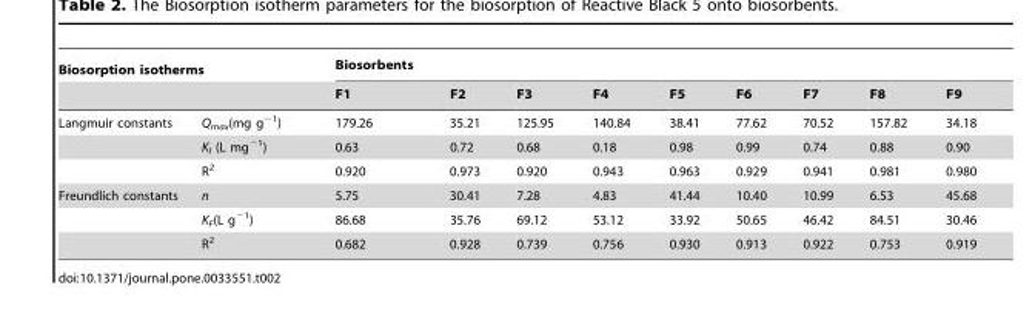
<table><thead><tr><td colspan="2">Biosorption isotherms</td><td colspan="9">Biosorbents</td></tr><tr><td></td><td></td><td>F1</td><td>F2</td><td>F3</td><td>F4</td><td>F5</td><td>F6</td><td>F7</td><td>F8</td><td>F9</td></tr></thead><tbody><tr><td rowspan="3">Langmuir constants</td><td>Q<sub>max</sub>(mg g<sup>−1</sup>)</td><td>179.26</td><td>35.21</td><td>125.95</td><td>140.84</td><td>38.41</td><td>77.62</td><td>70.52</td><td>157.82</td><td>34.18</td></tr><tr><td>K<sub>l</sub> (L mg<sup>−1</sup>)</td><td>0.63</td><td>0.72</td><td>0.68</td><td>0.18</td><td>0.98</td><td>0.99</td><td>0.74</td><td>0.88</td><td>0.90</td></tr><tr><td>R<sup>2</sup></td><td>0.920</td><td>0.973</td><td>0.920</td><td>0.943</td><td>0.963</td><td>0.929</td><td>0.941</td><td>0.981</td><td>0.980</td></tr><tr><td rowspan="3">Freundlich constants</td><td>n</td><td>5.75</td><td>30.41</td><td>7.28</td><td>4.83</td><td>41.44</td><td>10.40</td><td>10.99</td><td>6.53</td><td>45.68</td></tr><tr><td>K<sub>F</sub>(L g<sup>−1</sup>)</td><td>86.68</td><td>35.76</td><td>69.12</td><td>53.12</td><td>33.92</td><td>50.65</td><td>46.42</td><td>84.51</td><td>30.46</td></tr><tr><td>R<sup>2</sup></td><td>0.682</td><td>0.928</td><td>0.739</td><td>0.756</td><td>0.930</td><td>0.913</td><td>0.922</td><td>0.753</td><td>0.919</td></tr></tbody></table>